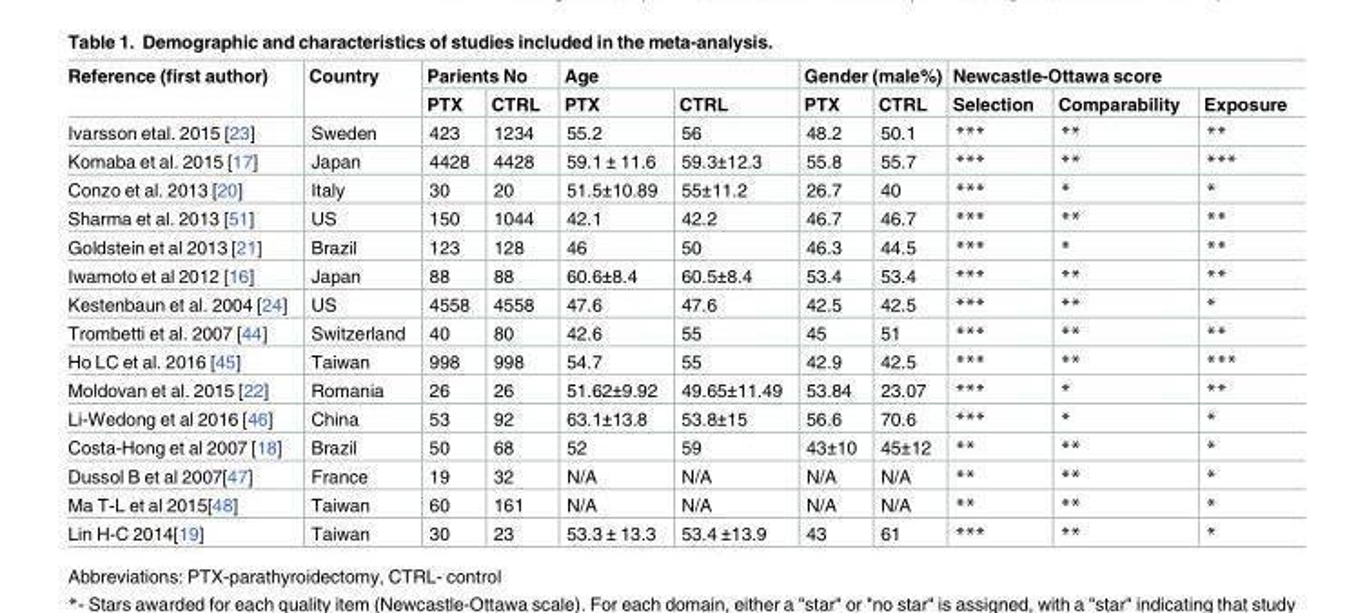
<table><thead><tr><td rowspan="2">Reference (first author)</td><td rowspan="2">Country</td><td colspan="2">Parients No</td><td colspan="2">Age</td><td colspan="2">Gender (male%)</td><td colspan="3">Newcastle-Ottawa score</td></tr><tr><td>PTX</td><td>CTRL</td><td>PTX</td><td>CTRL</td><td>PTX</td><td>CTRL</td><td>Selection</td><td>Comparability</td><td>Exposure</td></tr></thead><tbody><tr><td>Ivarsson etal. 2015 [23]</td><td>Sweden</td><td>423</td><td>1234</td><td>55.2</td><td>56</td><td>48.2</td><td>50.1</td><td>***</td><td>**</td><td>**</td></tr><tr><td>Komaba et al. 2015 [17]</td><td>Japan</td><td>4428</td><td>4428</td><td>59.1 ± 11.6</td><td>59.3±12.3</td><td>55.8</td><td>55.7</td><td>***</td><td>**</td><td>***</td></tr><tr><td>Conzo et al. 2013 [20]</td><td>Italy</td><td>30</td><td>20</td><td>51.5±10.89</td><td>55±11.2</td><td>26.7</td><td>40</td><td>***</td><td>*</td><td>*</td></tr><tr><td>Sharma et al. 2013 [51]</td><td>US</td><td>150</td><td>1044</td><td>42.1</td><td>42.2</td><td>46.7</td><td>46.7</td><td>***</td><td>**</td><td>**</td></tr><tr><td>Goldstein et al 2013 [21]</td><td>Brazil</td><td>123</td><td>128</td><td>46</td><td>50</td><td>46.3</td><td>44.5</td><td>***</td><td>*</td><td>**</td></tr><tr><td>Iwamoto et al 2012 [16]</td><td>Japan</td><td>88</td><td>88</td><td>60.6±8.4</td><td>60.5±8.4</td><td>53.4</td><td>53.4</td><td>***</td><td>**</td><td>**</td></tr><tr><td>Kestenbaun et al. 2004 [24]</td><td>US</td><td>4558</td><td>4558</td><td>47.6</td><td>47.6</td><td>42.5</td><td>42.5</td><td>***</td><td>**</td><td>*</td></tr><tr><td>Trombetti et al. 2007 [44]</td><td>Switzerland</td><td>40</td><td>80</td><td>42.6</td><td>55</td><td>45</td><td>51</td><td>***</td><td>**</td><td>**</td></tr><tr><td>Ho LC et al. 2016 [45]</td><td>Taiwan</td><td>998</td><td>998</td><td>54.7</td><td>55</td><td>42.9</td><td>42.5</td><td>***</td><td>**</td><td>***</td></tr><tr><td>Moldovan et al. 2015 [22]</td><td>Romania</td><td>26</td><td>26</td><td>51.62±9.92</td><td>49.65±11.49</td><td>53.84</td><td>23.07</td><td>***</td><td>*</td><td>**</td></tr><tr><td>Li-Wedong et al 2016 [46]</td><td>China</td><td>53</td><td>92</td><td>63.1±13.8</td><td>53.8±15</td><td>56.6</td><td>70.6</td><td>***</td><td>*</td><td>*</td></tr><tr><td>Costa-Hong et al 2007 [18]</td><td>Brazil</td><td>50</td><td>68</td><td>52</td><td>59</td><td>43±10</td><td>45±12</td><td>**</td><td>**</td><td>*</td></tr><tr><td>Dussol B et al 2007[47]</td><td>France</td><td>19</td><td>32</td><td>N/A</td><td>N/A</td><td>N/A</td><td>N/A</td><td>**</td><td>**</td><td>*</td></tr><tr><td>Ma T-L et al 2015[48]</td><td>Taiwan</td><td>60</td><td>161</td><td>N/A</td><td>N/A</td><td>N/A</td><td>N/A</td><td>**</td><td>**</td><td>*</td></tr><tr><td>Lin H-C 2014[19]</td><td>Taiwan</td><td>30</td><td>23</td><td>53.3 ± 13.3</td><td>53.4 ±13.9</td><td>43</td><td>61</td><td>***</td><td>**</td><td>*</td></tr></tbody></table>